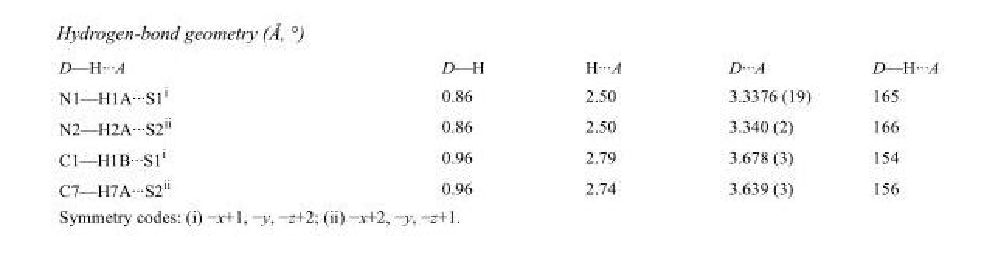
<table><tbody><tr><td>D—H···A</td><td>D—H</td><td>H···A</td><td>D···A</td><td>D—H···A</td></tr><tr><td>N1—H1A···S1<sup>i</sup></td><td>0.86</td><td>2.50</td><td>3.3376 (19)</td><td>165</td></tr><tr><td>N2—H2A···S2<sup>ii</sup></td><td>0.86</td><td>2.50</td><td>3.340 (2)</td><td>166</td></tr><tr><td>C1—H1B···S1<sup>i</sup></td><td>0.96</td><td>2.79</td><td>3.678 (3)</td><td>154</td></tr><tr><td>C7—H7A···S2<sup>ii</sup></td><td>0.96</td><td>2.74</td><td>3.639 (3)</td><td>156</td></tr></tbody></table>